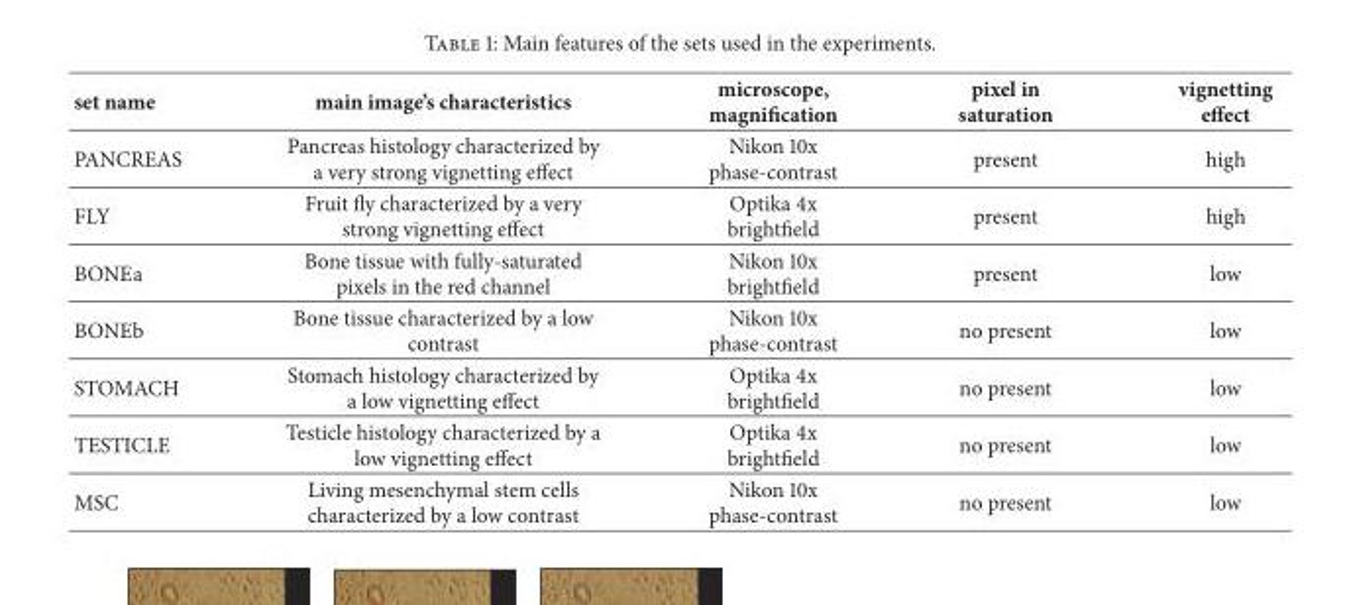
<table><thead><tr><td>set name</td><td>main image’s characteristics</td><td>microscope, magnification</td><td>pixel in saturation</td><td>vignetting effect</td></tr></thead><tbody><tr><td>PANCREAS</td><td>Pancreas histology characterized by a very strong vignetting effect</td><td>Nikon 10x phase-contrast</td><td>present</td><td>high</td></tr><tr><td>FLY</td><td>Fruit fly characterized by a very strong vignetting effect</td><td>Optika 4x brightfield</td><td>present</td><td>high</td></tr><tr><td>BONEa</td><td>Bone tissue with fully-saturated pixels in the red channel</td><td>Nikon 10x brightfield</td><td>present</td><td>low</td></tr><tr><td>BONEb</td><td>Bone tissue characterized by a low contrast</td><td>Nikon 10x phase-contrast</td><td>no present</td><td>low</td></tr><tr><td>STOMACH</td><td>Stomach histology characterized by a low vignetting effect</td><td>Optika 4x brightfield</td><td>no present</td><td>low</td></tr><tr><td>TESTICLE</td><td>Testicle histology characterized by a low vignetting effect</td><td>Optika 4x brightfield</td><td>no present</td><td>low</td></tr><tr><td>MSC</td><td>Living mesenchymal stem cells characterized by a low contrast</td><td>Nikon 10x phase-contrast</td><td>no present</td><td>low</td></tr></tbody></table>